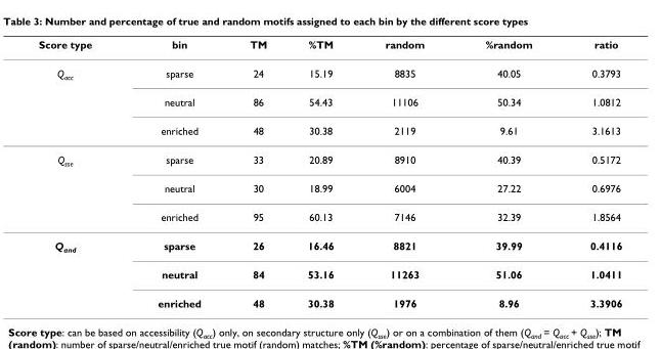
<table><thead><tr><td>Score type</td><td>bin</td><td>TM</td><td>%TM</td><td>random</td><td>%random</td><td>ratio</td></tr></thead><tbody><tr><td rowspan="3">Q<sub>acc</sub></td><td>sparse</td><td>24</td><td>15.19</td><td>8835</td><td>40.05</td><td>0.3793</td></tr><tr><td>neutral</td><td>86</td><td>54.43</td><td>11106</td><td>50.34</td><td>1.0812</td></tr><tr><td>enriched</td><td>48</td><td>30.38</td><td>2119</td><td>9.61</td><td>3.1613</td></tr><tr><td rowspan="3">Q<sub>sse</sub></td><td>sparse</td><td>33</td><td>20.89</td><td>8910</td><td>40.39</td><td>0.5172</td></tr><tr><td>neutral</td><td>30</td><td>18.99</td><td>6004</td><td>27.22</td><td>0.6976</td></tr><tr><td>enriched</td><td>95</td><td>60.13</td><td>7146</td><td>32.39</td><td>1.8564</td></tr><tr><td rowspan="3">Q<sub>and</sub></td><td>sparse</td><td>26</td><td>16.46</td><td>8821</td><td>39.99</td><td>0.4116</td></tr><tr><td>neutral</td><td>84</td><td>53.16</td><td>11263</td><td>51.06</td><td>1.0411</td></tr><tr><td>enriched</td><td>48</td><td>30.38</td><td>1976</td><td>8.96</td><td>3.3906</td></tr></tbody></table>